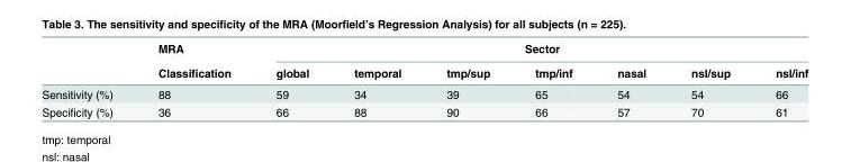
<table><thead><tr><td rowspan="2"></td><td rowspan="2">MRA Classification</td><td colspan="7">Sector</td></tr><tr><td>global</td><td>temporal</td><td>tmp/sup</td><td>tmp/inf</td><td>nasal</td><td>nsl/sup</td><td>nsl/inf</td></tr></thead><tbody><tr><td>Sensitivity (%)</td><td>88</td><td>59</td><td>34</td><td>39</td><td>65</td><td>54</td><td>54</td><td>66</td></tr><tr><td>Specificity (%)</td><td>36</td><td>66</td><td>88</td><td>90</td><td>66</td><td>57</td><td>70</td><td>61</td></tr></tbody></table>